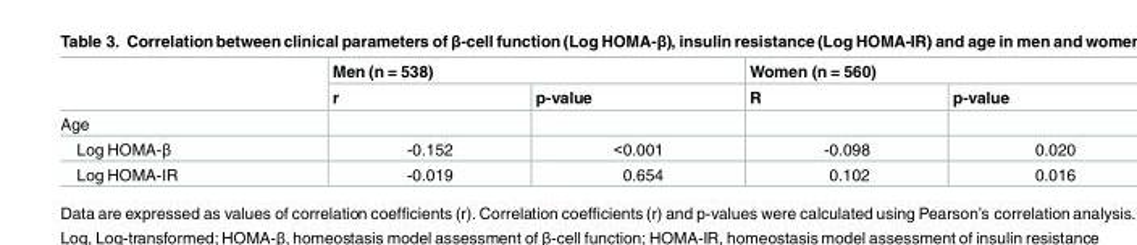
<table><thead><tr><td rowspan="2"></td><td colspan="2">Men (n = 538)</td><td colspan="2">Women (n = 560)</td></tr><tr><td>r</td><td>p-value</td><td>R</td><td>p-value</td></tr></thead><tbody><tr><td colspan="5">Age</td></tr><tr><td>Log HOMA-β</td><td>-0.152</td><td>&lt;0.001</td><td>-0.098</td><td>0.020</td></tr><tr><td>Log HOMA-IR</td><td>-0.019</td><td>0.654</td><td>0.102</td><td>0.016</td></tr></tbody></table>